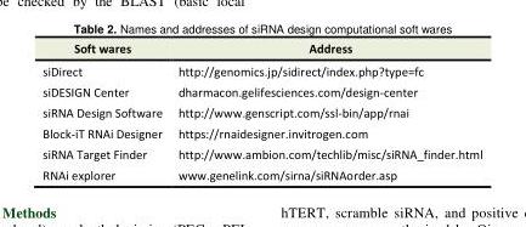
<table><tbody><tr><td>Soft wares</td><td>Address</td></tr><tr><td>siDirect</td><td>http://genomics.jp/sidirect/index.php?type=fc</td></tr><tr><td>siDESIGN Center</td><td>dharmacon.gelifesciences.com/design-center</td></tr><tr><td>siRNA Design Software</td><td>http://www.genscript.com/ssl-bin/app/rnai</td></tr><tr><td>Block-iT RNAi Designer</td><td>https://rnaidesigner.invitrogen.com</td></tr><tr><td>siRNA Target Finder</td><td>http://www.ambion.com/techlib/misc/siRNA_finder.html</td></tr><tr><td>RNAi explorer</td><td>www.genelink.com/sirna/siRNAorder.asp</td></tr></tbody></table>